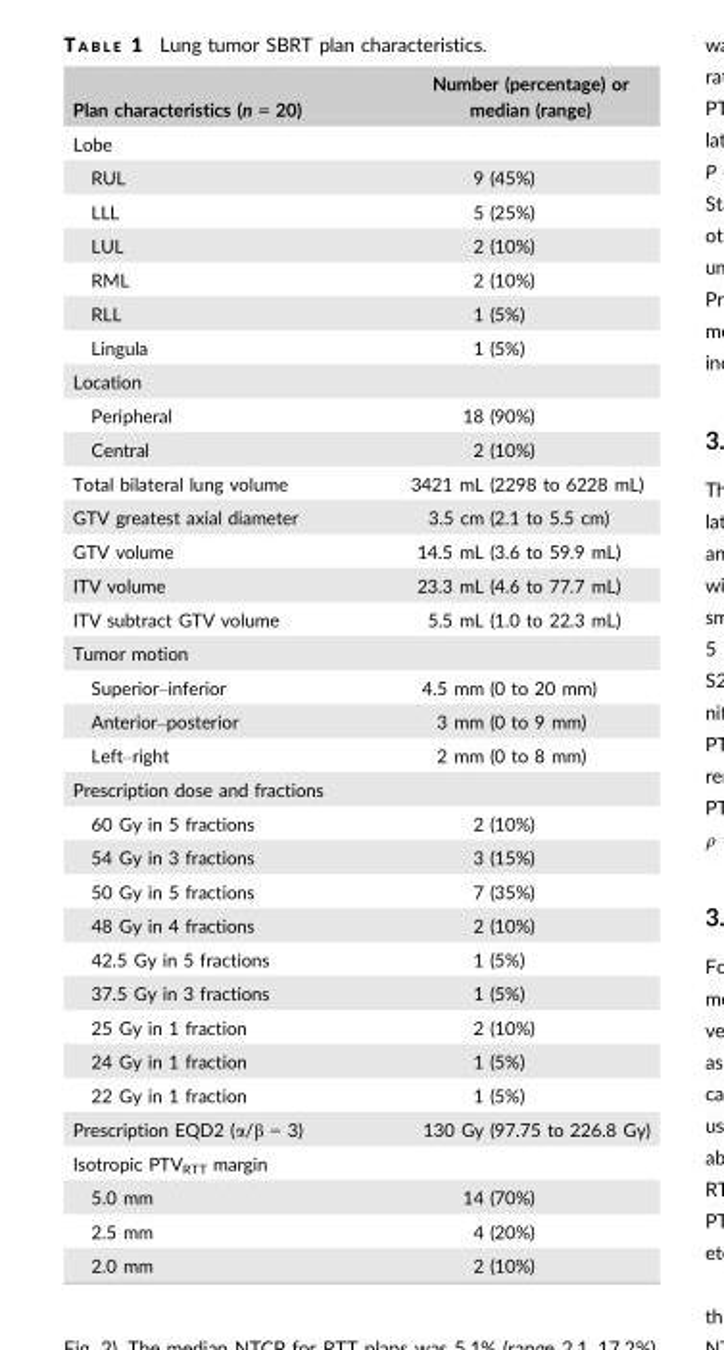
<table><thead><tr><td>Plan characteristics (n = 20)</td><td>Number (percentage) or median (range)</td></tr></thead><tbody><tr><td colspan="2">Lobe</td></tr><tr><td>RUL</td><td>9 (45%)</td></tr><tr><td>LLL</td><td>5 (25%)</td></tr><tr><td>LUL</td><td>2 (10%)</td></tr><tr><td>RML</td><td>2 (10%)</td></tr><tr><td>RLL</td><td>1 (5%)</td></tr><tr><td>Lingula</td><td>1 (5%)</td></tr><tr><td colspan="2">Location</td></tr><tr><td>Peripheral</td><td>18 (90%)</td></tr><tr><td>Central</td><td>2 (10%)</td></tr><tr><td>Total bilateral lung volume</td><td>3421 mL (2298 to 6228 mL)</td></tr><tr><td>GTV greatest axial diameter</td><td>3.5 cm (2.1 to 5.5 cm)</td></tr><tr><td>GTV volume</td><td>14.5 mL (3.6 to 59.9 mL)</td></tr><tr><td>ITV volume</td><td>23.3 mL (4.6 to 77.7 mL)</td></tr><tr><td>ITV subtract GTV volume</td><td>5.5 mL (1.0 to 22.3 mL)</td></tr><tr><td colspan="2">Tumor motion</td></tr><tr><td>Superior–inferior</td><td>4.5 mm (0 to 20 mm)</td></tr><tr><td>Anterior–posterior</td><td>3 mm (0 to 9 mm)</td></tr><tr><td>Left–right</td><td>2 mm (0 to 8 mm)</td></tr><tr><td colspan="2">Prescription dose and fractions</td></tr><tr><td>60 Gy in 5 fractions</td><td>2 (10%)</td></tr><tr><td>54 Gy in 3 fractions</td><td>3 (15%)</td></tr><tr><td>50 Gy in 5 fractions</td><td>7 (35%)</td></tr><tr><td>48 Gy in 4 fractions</td><td>2 (10%)</td></tr><tr><td>42.5 Gy in 5 fractions</td><td>1 (5%)</td></tr><tr><td>37.5 Gy in 3 fractions</td><td>1 (5%)</td></tr><tr><td>25 Gy in 1 fraction</td><td>2 (10%)</td></tr><tr><td>24 Gy in 1 fraction</td><td>1 (5%)</td></tr><tr><td>22 Gy in 1 fraction</td><td>1 (5%)</td></tr><tr><td>Prescription EQD2 (α/β = 3)</td><td>130 Gy (97.75 to 226.8 Gy)</td></tr><tr><td colspan="2">Isotropic PTV<sub>RTT</sub> margin</td></tr><tr><td>5.0 mm</td><td>14 (70%)</td></tr><tr><td>2.5 mm</td><td>4 (20%)</td></tr><tr><td>2.0 mm</td><td>2 (10%)</td></tr></tbody></table>